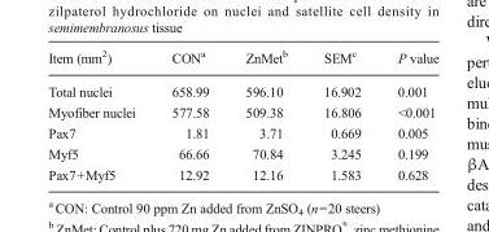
<table><thead><tr><td>Item (mm<sup>2</sup>)</td><td>CON<sup>a</sup></td><td>ZnMet<sup>b</sup></td><td>SEM<sup>c</sup></td><td>P value</td></tr></thead><tbody><tr><td>Total nuclei</td><td>658.99</td><td>596.10</td><td>16.902</td><td>0.001</td></tr><tr><td>Myofiber nuclei</td><td>577.58</td><td>509.38</td><td>16.806</td><td>&lt;0.001</td></tr><tr><td>Pax7</td><td>1.81</td><td>3.71</td><td>0.669</td><td>0.005</td></tr><tr><td>Myf5</td><td>66.66</td><td>70.84</td><td>3.245</td><td>0.199</td></tr><tr><td>Pax7+Myf5</td><td>12.92</td><td>12.16</td><td>1.583</td><td>0.628</td></tr></tbody></table>